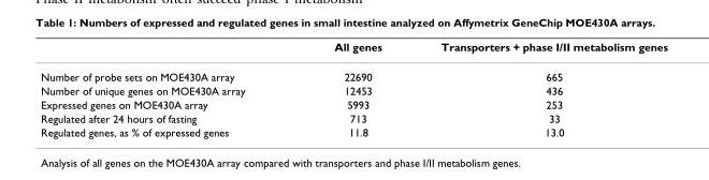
<table><thead><tr><td></td><td>All genes</td><td>Transporters + phase I/II metabolism genes</td></tr></thead><tbody><tr><td>Number of probe sets on MOE430A array</td><td>22690</td><td>665</td></tr><tr><td>Number of unique genes on MOE430A array</td><td>12453</td><td>436</td></tr><tr><td>Expressed genes on MOE430A array</td><td>5993</td><td>253</td></tr><tr><td>Regulated after 24 hours of fasting</td><td>713</td><td>33</td></tr><tr><td>Regulated genes, as % of expressed genes</td><td>11.8</td><td>13.0</td></tr></tbody></table>